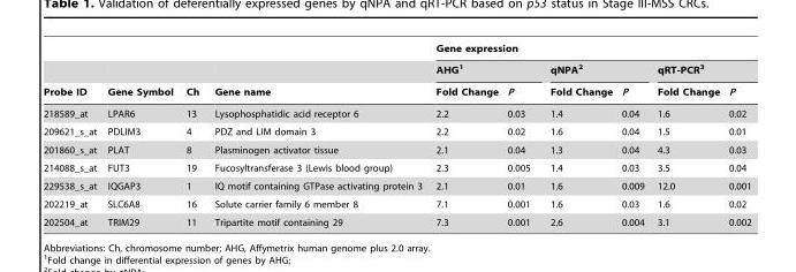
<table><thead><tr><td rowspan="3">Probe ID</td><td rowspan="3">Gene Symbol</td><td rowspan="3">Ch</td><td rowspan="3">Gene name</td><td colspan="6">Gene expression</td></tr><tr><td colspan="2">AHG<sup>1</sup></td><td colspan="2">qNPA<sup>2</sup></td><td colspan="2">qRT-PCR<sup>3</sup></td></tr><tr><td>Fold Change</td><td>P</td><td>Fold Change</td><td>P</td><td>Fold Change</td><td>P</td></tr></thead><tbody><tr><td>218589_at</td><td>LPAR6</td><td>13</td><td>Lysophosphatidic acid receptor 6</td><td>2.2</td><td>0.03</td><td>1.4</td><td>0.04</td><td>1.6</td><td>0.02</td></tr><tr><td>209621_s_at</td><td>PDLIM3</td><td>4</td><td>PDZ and LIM domain 3</td><td>2.2</td><td>0.02</td><td>1.6</td><td>0.04</td><td>1.5</td><td>0.01</td></tr><tr><td>201860_s_at</td><td>PLAT</td><td>8</td><td>Plasminogen activator tissue</td><td>2.1</td><td>0.04</td><td>1.3</td><td>0.04</td><td>4.3</td><td>0.03</td></tr><tr><td>214088_s_at</td><td>FUT3</td><td>19</td><td>Fucosyltransferase 3 (Lewis blood group)</td><td>2.3</td><td>0.005</td><td>1.4</td><td>0.03</td><td>3.5</td><td>0.04</td></tr><tr><td>229538_s_at</td><td>IQGAP3</td><td>1</td><td>IQ motif containing GTPase activating protein 3</td><td>2.1</td><td>0.01</td><td>1.6</td><td>0.009</td><td>12.0</td><td>0.001</td></tr><tr><td>202219_at</td><td>SLC6A8</td><td>16</td><td>Solute carrier family 6 member 8</td><td>7.1</td><td>0.001</td><td>1.6</td><td>0.03</td><td>1.6</td><td>0.02</td></tr><tr><td>202504_at</td><td>TRIM29</td><td>11</td><td>Tripartite motif containing 29</td><td>7.3</td><td>0.001</td><td>2.6</td><td>0.004</td><td>3.1</td><td>0.002</td></tr></tbody></table>